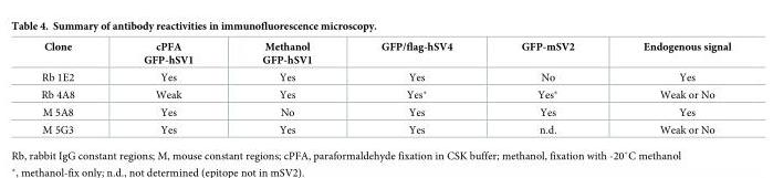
<table><thead><tr><td>Clone</td><td>cPFA GFP-hSV1</td><td>Methanol GFP-hSV1</td><td>GFP/flag-hSV4</td><td>GFP-mSV2</td><td>Endogenous signal</td></tr></thead><tbody><tr><td>Rb 1E2</td><td>Yes</td><td>Yes</td><td>Yes</td><td>No</td><td>Yes</td></tr><tr><td>Rb 4A8</td><td>Weak</td><td>Yes</td><td>Yes*</td><td>Yes*</td><td>Weak or No</td></tr><tr><td>M 5A8</td><td>Yes</td><td>No</td><td>Yes</td><td>Yes</td><td>Yes</td></tr><tr><td>M 5G3</td><td>Yes</td><td>Yes</td><td>Yes</td><td>n.d.</td><td>Weak or No</td></tr></tbody></table>